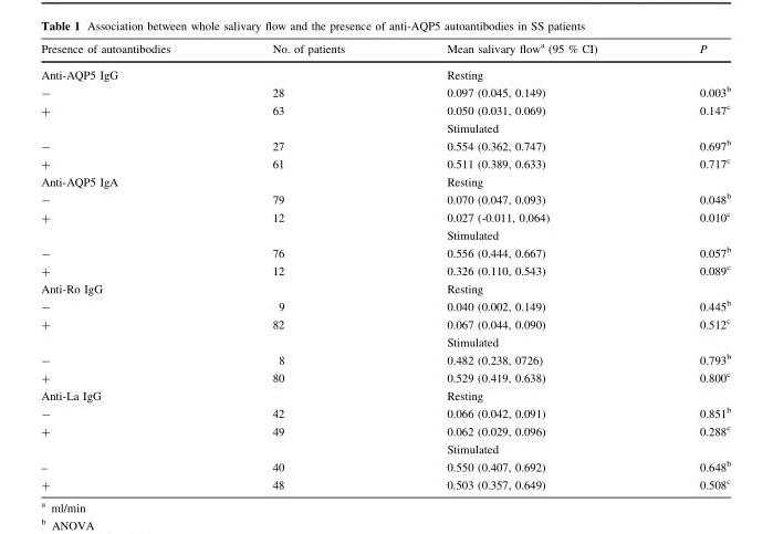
<table><thead><tr><td>Presence of autoantibodies</td><td>No. of patients</td><td>Mean salivary flow<sup>a</sup> (95 % CI)</td><td>P</td></tr></thead><tbody><tr><td>Anti-AQP5 IgG</td><td></td><td>Resting</td><td></td></tr><tr><td>-</td><td>28</td><td>0.097 (0.045, 0.149)</td><td>0.003<sup>b</sup></td></tr><tr><td rowspan="2">+</td><td>63</td><td>0.050 (0.031, 0.069)</td><td>0.147<sup>c</sup></td></tr><tr><td></td><td>Stimulated</td><td></td></tr><tr><td>-</td><td>27</td><td>0.554 (0.362, 0.747)</td><td>0.697<sup>b</sup></td></tr><tr><td>+</td><td>61</td><td>0.511 (0.389, 0.633)</td><td>0.717<sup>c</sup></td></tr><tr><td>Anti-AQP5 IgA</td><td></td><td>Resting</td><td></td></tr><tr><td>-</td><td>79</td><td>0.070 (0.047, 0.093)</td><td>0.048<sup>b</sup></td></tr><tr><td rowspan="2">+</td><td>12</td><td>0.027 (-0.011, 0.064)</td><td>0.010<sup>c</sup></td></tr><tr><td></td><td>Stimulated</td><td></td></tr><tr><td>-</td><td>76</td><td>0.556 (0.444, 0.667)</td><td>0.057<sup>b</sup></td></tr><tr><td>+</td><td>12</td><td>0.326 (0.110, 0.543)</td><td>0.089<sup>c</sup></td></tr><tr><td>Anti-Ro IgG</td><td></td><td>Resting</td><td></td></tr><tr><td>-</td><td>9</td><td>0.040 (0.002, 0.149)</td><td>0.445<sup>b</sup></td></tr><tr><td rowspan="2">+</td><td>82</td><td>0.067 (0.044, 0.090)</td><td>0.512<sup>c</sup></td></tr><tr><td></td><td>Stimulated</td><td></td></tr><tr><td>-</td><td>8</td><td>0.482 (0.238, 0726)</td><td>0.793<sup>b</sup></td></tr><tr><td>+</td><td>80</td><td>0.529 (0.419, 0.638)</td><td>0.800<sup>c</sup></td></tr><tr><td>Anti-La IgG</td><td></td><td>Resting</td><td></td></tr><tr><td>-</td><td>42</td><td>0.066 (0.042, 0.091)</td><td>0.851<sup>b</sup></td></tr><tr><td rowspan="2">+</td><td>49</td><td>0.062 (0.029, 0.096)</td><td>0.288<sup>c</sup></td></tr><tr><td></td><td>Stimulated</td><td></td></tr><tr><td>–</td><td>40</td><td>0.550 (0.407, 0.692)</td><td>0.648<sup>b</sup></td></tr><tr><td>+</td><td>48</td><td>0.503 (0.357, 0.649)</td><td>0.508<sup>c</sup></td></tr></tbody></table>